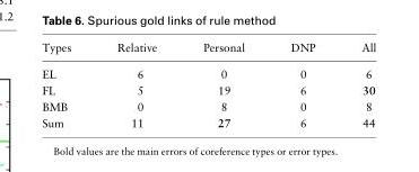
<table><thead><tr><td>Types</td><td>Relative</td><td>Personal</td><td>DNP</td><td>All</td></tr></thead><tbody><tr><td>EL</td><td>6</td><td>0</td><td>0</td><td>6</td></tr><tr><td>FL</td><td>5</td><td>19</td><td>6</td><td>30</td></tr><tr><td>BMB</td><td>0</td><td>8</td><td>0</td><td>8</td></tr><tr><td>Sum</td><td>11</td><td>27</td><td>6</td><td>44</td></tr></tbody></table>